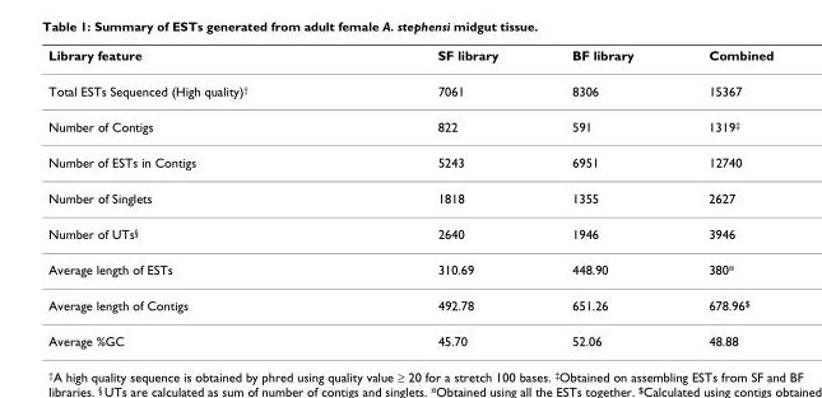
<table><thead><tr><td>Library feature</td><td>SF library</td><td>BF library</td><td>Combined</td></tr></thead><tbody><tr><td>Total ESTs Sequenced (High quality)<sup>†</sup></td><td>7061</td><td>8306</td><td>15367</td></tr><tr><td>Number of Contigs</td><td>822</td><td>591</td><td>1319<sup>‡</sup></td></tr><tr><td>Number of ESTs in Contigs</td><td>5243</td><td>6951</td><td>12740</td></tr><tr><td>Number of Singlets</td><td>1818</td><td>1355</td><td>2627</td></tr><tr><td>Number of UTs<sup>§</sup></td><td>2640</td><td>1946</td><td>3946</td></tr><tr><td>Average length of ESTs</td><td>310.69</td><td>448.90</td><td>380<sup>¤</sup></td></tr><tr><td>Average length of Contigs</td><td>492.78</td><td>651.26</td><td>678.96<sup>$</sup></td></tr><tr><td>Average %GC</td><td>45.70</td><td>52.06</td><td>48.88</td></tr></tbody></table>